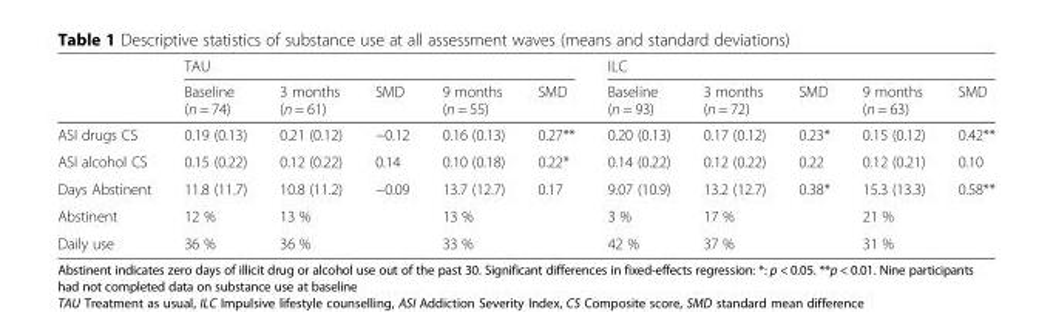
<table><thead><tr><td rowspan="2"></td><td colspan="5">TAU</td><td colspan="5">ILC</td></tr><tr><td>Baseline (n = 74)</td><td>3 months (n = 61)</td><td>SMD</td><td>9 months (n = 55)</td><td>SMD</td><td>Baseline (n = 93)</td><td>3 months (n = 72)</td><td>SMD</td><td>9 months (n = 63)</td><td>SMD</td></tr></thead><tbody><tr><td>ASI drugs CS</td><td>0.19 (0.13)</td><td>0.21 (0.12)</td><td>−0.12</td><td>0.16 (0.13)</td><td>0.27**</td><td>0.20 (0.13)</td><td>0.17 (0.12)</td><td>0.23*</td><td>0.15 (0.12)</td><td>0.42**</td></tr><tr><td>ASI alcohol CS</td><td>0.15 (0.22)</td><td>0.12 (0.22)</td><td>0.14</td><td>0.10 (0.18)</td><td>0.22*</td><td>0.14 (0.22)</td><td>0.12 (0.22)</td><td>0.22</td><td>0.12 (0.21)</td><td>0.10</td></tr><tr><td>Days Abstinent</td><td>11.8 (11.7)</td><td>10.8 (11.2)</td><td>−0.09</td><td>13.7 (12.7)</td><td>0.17</td><td>9.07 (10.9)</td><td>13.2 (12.7)</td><td>0.38*</td><td>15.3 (13.3)</td><td>0.58**</td></tr><tr><td>Abstinent</td><td>12 %</td><td>13 %</td><td></td><td>13 %</td><td></td><td>3 %</td><td>17 %</td><td></td><td>21 %</td><td></td></tr><tr><td>Daily use</td><td>36 %</td><td>36 %</td><td></td><td>33 %</td><td></td><td>42 %</td><td>37 %</td><td></td><td>31 %</td><td></td></tr></tbody></table>